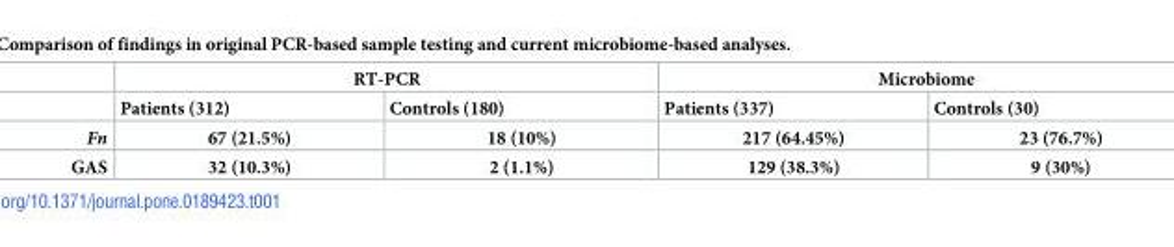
<table><thead><tr><td rowspan="2"></td><td colspan="2">RT-PCR</td><td colspan="2">Microbiome</td></tr><tr><td>Patients (312)</td><td>Controls (180)</td><td>Patients (337)</td><td>Controls (30)</td></tr></thead><tbody><tr><td>Fn</td><td>67 (21.5%)</td><td>18 (10%)</td><td>217 (64.45%)</td><td>23 (76.7%)</td></tr><tr><td>GAS</td><td>32 (10.3%)</td><td>2 (1.1%)</td><td>129 (38.3%)</td><td>9 (30%)</td></tr></tbody></table>